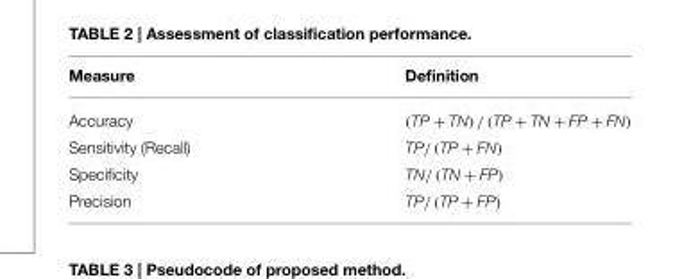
<table><thead><tr><td>Measure</td><td>Definition</td></tr></thead><tbody><tr><td>Accuracy</td><td>(TP + TN) / (TP + TN + FP + FN)</td></tr><tr><td>Sensitivity (Recall)</td><td>TP/ (TP + FN)</td></tr><tr><td>Specificity</td><td>TN/ (TN + FP)</td></tr><tr><td>Precision</td><td>TP/ (TP + FP)</td></tr></tbody></table>